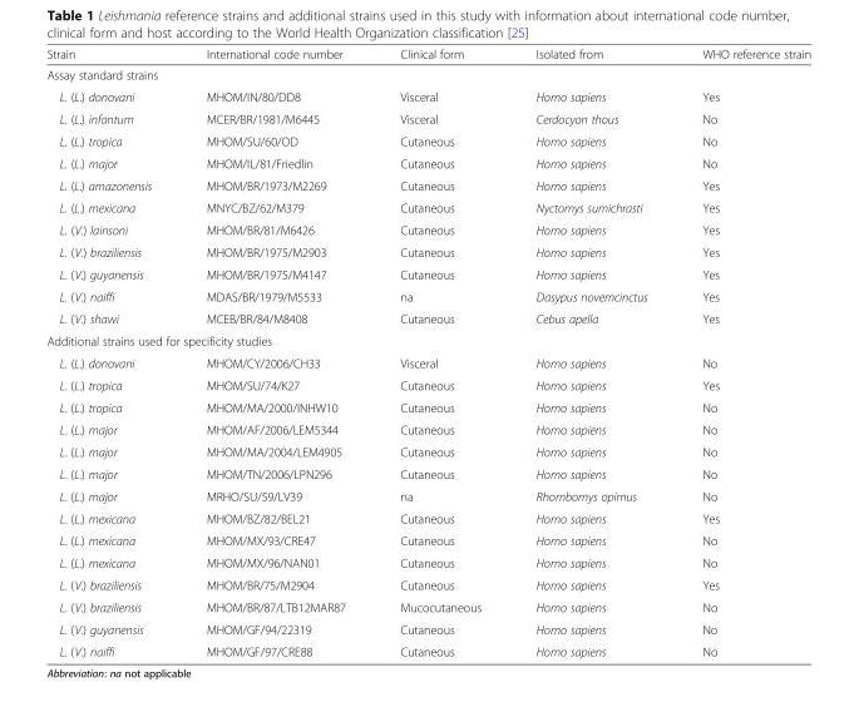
<table><thead><tr><td>Strain</td><td>International code number</td><td>Clinical form</td><td>Isolated from</td><td>WHO reference strain</td></tr></thead><tbody><tr><td colspan="5">Assay standard strains</td></tr><tr><td>L. (L.) donovani</td><td>MHOM/IN/80/DD8</td><td>Visceral</td><td>Homo sapiens</td><td>Yes</td></tr><tr><td>L. (L.) infantum</td><td>MCER/BR/1981/M6445</td><td>Visceral</td><td>Cerdocyon thous</td><td>No</td></tr><tr><td>L. (L.) tropica</td><td>MHOM/SU/60/OD</td><td>Cutaneous</td><td>Homo sapiens</td><td>No</td></tr><tr><td>L. (L.) major</td><td>MHOM/IL/81/Friedlin</td><td>Cutaneous</td><td>Homo sapiens</td><td>No</td></tr><tr><td>L. (L.) amazonensis</td><td>MHOM/BR/1973/M2269</td><td>Cutaneous</td><td>Homo sapiens</td><td>Yes</td></tr><tr><td>L. (L.) mexicana</td><td>MNYC/BZ/62/M379</td><td>Cutaneous</td><td>Nyctomys sumichrasti</td><td>Yes</td></tr><tr><td>L. (V.) lainsoni</td><td>MHOM/BR/81/M6426</td><td>Cutaneous</td><td>Homo sapiens</td><td>Yes</td></tr><tr><td>L. (V.) braziliensis</td><td>MHOM/BR/1975/M2903</td><td>Cutaneous</td><td>Homo sapiens</td><td>Yes</td></tr><tr><td>L. (V.) guyanensis</td><td>MHOM/BR/1975/M4147</td><td>Cutaneous</td><td>Homo sapiens</td><td>Yes</td></tr><tr><td>L. (V.) naiffi</td><td>MDAS/BR/1979/M5533</td><td>na</td><td>Dasypus novemcinctus</td><td>Yes</td></tr><tr><td>L. (V.) shawi</td><td>MCEB/BR/84/M8408</td><td>Cutaneous</td><td>Cebus apella</td><td>Yes</td></tr><tr><td colspan="5">Additional strains used for specificity studies</td></tr><tr><td>L. (L.) donovani</td><td>MHOM/CY/2006/CH33</td><td>Visceral</td><td>Homo sapiens</td><td>No</td></tr><tr><td>L. (L.) tropica</td><td>MHOM/SU/74/K27</td><td>Cutaneous</td><td>Homo sapiens</td><td>Yes</td></tr><tr><td>L. (L.) tropica</td><td>MHOM/MA/2000/INHW10</td><td>Cutaneous</td><td>Homo sapiens</td><td>No</td></tr><tr><td>L. (L.) major</td><td>MHOM/AF/2006/LEM5344</td><td>Cutaneous</td><td>Homo sapiens</td><td>No</td></tr><tr><td>L. (L.) major</td><td>MHOM/MA/2004/LEM4905</td><td>Cutaneous</td><td>Homo sapiens</td><td>No</td></tr><tr><td>L. (L.) major</td><td>MHOM/TN/2006/LPN296</td><td>Cutaneous</td><td>Homo sapiens</td><td>No</td></tr><tr><td>L. (L.) major</td><td>MRHO/SU/59/LV39</td><td>na</td><td>Rhombomys opimus</td><td>No</td></tr><tr><td>L. (L.) mexicana</td><td>MHOM/BZ/82/BEL21</td><td>Cutaneous</td><td>Homo sapiens</td><td>Yes</td></tr><tr><td>L. (L.) mexicana</td><td>MHOM/MX/93/CRE47</td><td>Cutaneous</td><td>Homo sapiens</td><td>No</td></tr><tr><td>L. (L.) mexicana</td><td>MHOM/MX/96/NAN01</td><td>Cutaneous</td><td>Homo sapiens</td><td>No</td></tr><tr><td>L. (V.) braziliensis</td><td>MHOM/BR/75/M2904</td><td>Cutaneous</td><td>Homo sapiens</td><td>Yes</td></tr><tr><td>L. (V.) braziliensis</td><td>MHOM/BR/87/LTB12MAR87</td><td>Mucocutaneous</td><td>Homo sapiens</td><td>No</td></tr><tr><td>L. (V.) guyanensis</td><td>MHOM/GF/94/22319</td><td>Cutaneous</td><td>Homo sapiens</td><td>No</td></tr><tr><td>L. (V.) naiffi</td><td>MHOM/GF/97/CRE88</td><td>Cutaneous</td><td>Homo sapiens</td><td>No</td></tr></tbody></table>